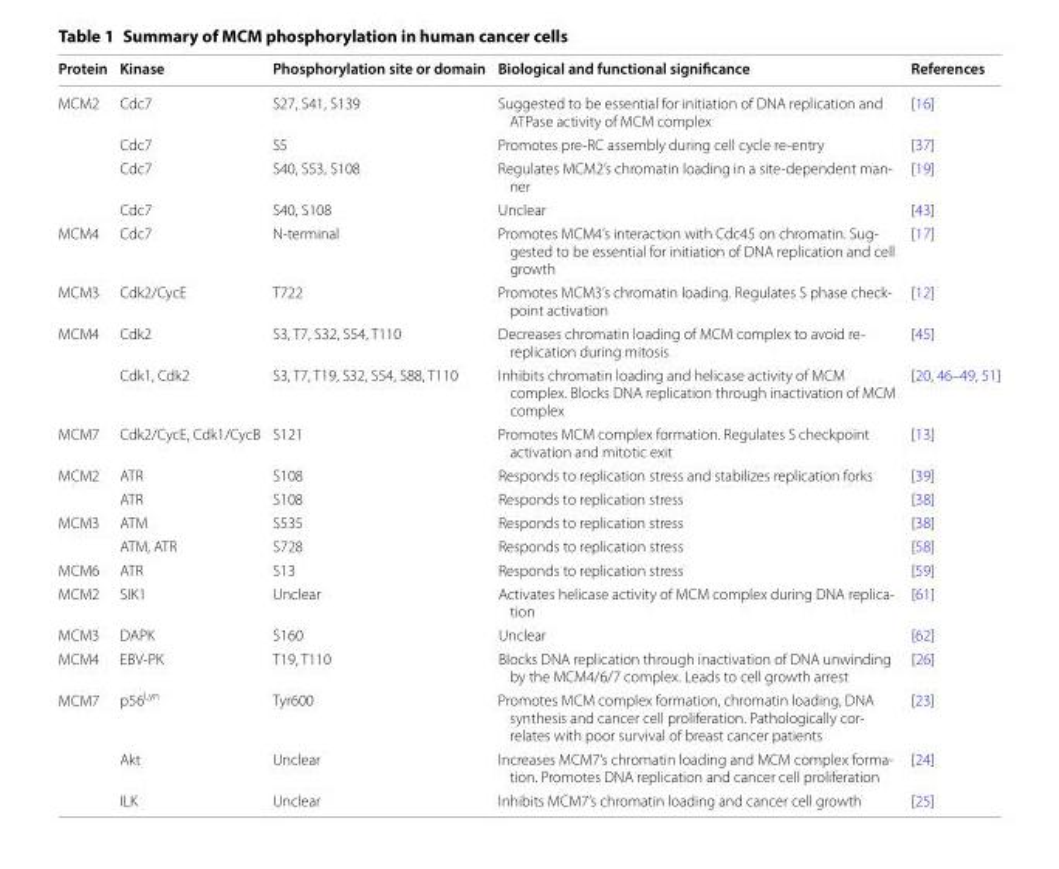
<table><thead><tr><td>Protein</td><td>Kinase</td><td>Phosphorylation site or domain</td><td>Biological and functional significance</td><td>References</td></tr></thead><tbody><tr><td rowspan="4">MCM2</td><td>Cdc7</td><td>S27, S41, S139</td><td>Suggested to be essential for initiation of DNA replication and ATPase activity of MCM complex</td><td>[16]</td></tr><tr><td>Cdc7</td><td>S5</td><td>Promotes pre-RC assembly during cell cycle re-entry</td><td>[37]</td></tr><tr><td>Cdc7</td><td>S40, S53, S108</td><td>Regulates MCM2’s chromatin loading in a site-dependent man- ner</td><td>[19]</td></tr><tr><td>Cdc7</td><td>S40, S108</td><td>Unclear</td><td>[43]</td></tr><tr><td>MCM4</td><td>Cdc7</td><td>N-terminal</td><td>Promotes MCM4’s interaction with Cdc45 on chromatin. Sug- gested to be essential for initiation of DNA replication and cell growth</td><td>[17]</td></tr><tr><td>MCM3</td><td>Cdk2/CycE</td><td>T722</td><td>Promotes MCM3’s chromatin loading. Regulates S phase check- point activation</td><td>[12]</td></tr><tr><td rowspan="2">MCM4</td><td>Cdk2</td><td>S3, T7, S32, S54, T110</td><td>Decreases chromatin loading of MCM complex to avoid re- replication during mitosis</td><td>[45]</td></tr><tr><td>Cdk1, Cdk2</td><td>S3, T7, T19, S32, S54, S88, T110</td><td>Inhibits chromatin loading and helicase activity of MCM complex. Blocks DNA replication through inactivation of MCM complex</td><td>[20, 46–49, 51]</td></tr><tr><td>MCM7</td><td>Cdk2/CycE, Cdk1/CycB</td><td>S121</td><td>Promotes MCM complex formation. Regulates S checkpoint activation and mitotic exit</td><td>[13]</td></tr><tr><td rowspan="2">MCM2</td><td>ATR</td><td>S108</td><td>Responds to replication stress and stabilizes replication forks</td><td>[39]</td></tr><tr><td>ATR</td><td>S108</td><td>Responds to replication stress</td><td>[38]</td></tr><tr><td rowspan="2">MCM3</td><td>ATM</td><td>S535</td><td>Responds to replication stress</td><td>[38]</td></tr><tr><td>ATM, ATR</td><td>S728</td><td>Responds to replication stress</td><td>[58]</td></tr><tr><td>MCM6</td><td>ATR</td><td>S13</td><td>Responds to replication stress</td><td>[59]</td></tr><tr><td>MCM2</td><td>SIK1</td><td>Unclear</td><td>Activates helicase activity of MCM complex during DNA replica- tion</td><td>[61]</td></tr><tr><td>MCM3</td><td>DAPK</td><td>S160</td><td>Unclear</td><td>[62]</td></tr><tr><td>MCM4</td><td>EBV-PK</td><td>T19, T110</td><td>Blocks DNA replication through inactivation of DNA unwinding by the MCM4/6/7 complex. Leads to cell growth arrest</td><td>[26]</td></tr><tr><td rowspan="3">MCM7</td><td>p56<sup>Lyn</sup></td><td>Tyr600</td><td>Promotes MCM complex formation, chromatin loading, DNA synthesis and cancer cell proliferation. Pathologically cor- relates with poor survival of breast cancer patients</td><td>[23]</td></tr><tr><td>Akt</td><td>Unclear</td><td>Increases MCM7’s chromatin loading and MCM complex forma- tion. Promotes DNA replication and cancer cell proliferation</td><td>[24]</td></tr><tr><td>ILK</td><td>Unclear</td><td>Inhibits MCM7’s chromatin loading and cancer cell growth</td><td>[25]</td></tr></tbody></table>